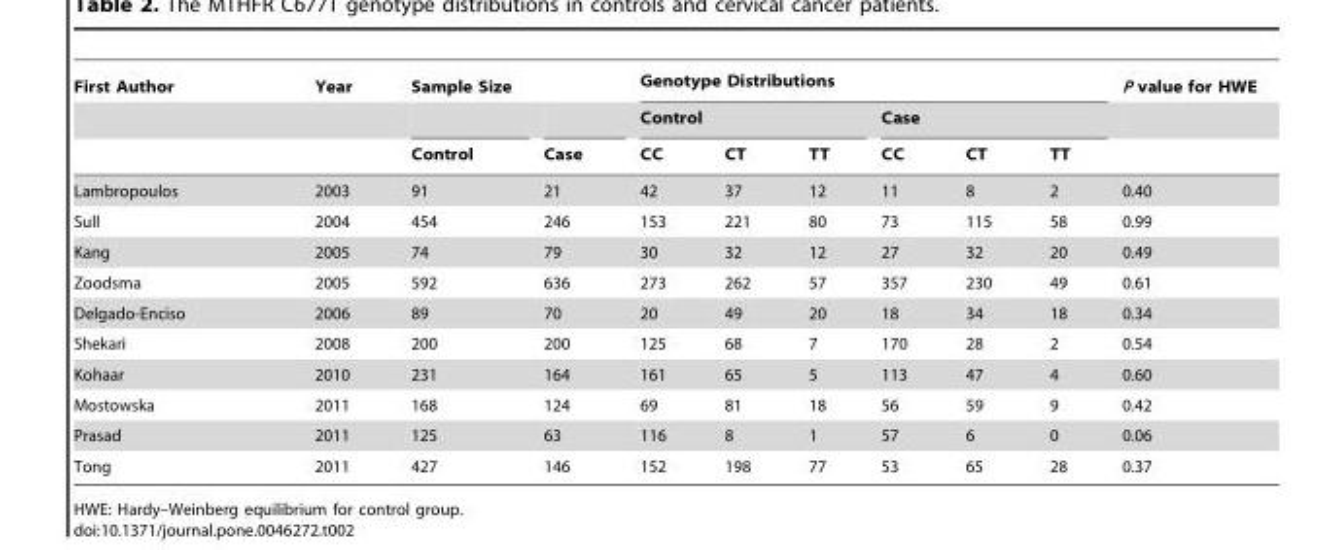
<table><thead><tr><td rowspan="3">First Author</td><td rowspan="3">Year</td><td colspan="2">Sample Size</td><td colspan="6">Genotype Distributions</td><td rowspan="3">P value for HWE</td></tr><tr><td rowspan="2">Control</td><td rowspan="2">Case</td><td colspan="3">Control</td><td colspan="3">Case</td></tr><tr><td>CC</td><td>CT</td><td>TT</td><td>CC</td><td>CT</td><td>TT</td></tr></thead><tbody><tr><td>Lambropoulos</td><td>2003</td><td>91</td><td>21</td><td>42</td><td>37</td><td>12</td><td>11</td><td>8</td><td>2</td><td>0.40</td></tr><tr><td>Sull</td><td>2004</td><td>454</td><td>246</td><td>153</td><td>221</td><td>80</td><td>73</td><td>115</td><td>58</td><td>0.99</td></tr><tr><td>Kang</td><td>2005</td><td>74</td><td>79</td><td>30</td><td>32</td><td>12</td><td>27</td><td>32</td><td>20</td><td>0.49</td></tr><tr><td>Zoodsma</td><td>2005</td><td>592</td><td>636</td><td>273</td><td>262</td><td>57</td><td>357</td><td>230</td><td>49</td><td>0.61</td></tr><tr><td>Delgado-Enciso</td><td>2006</td><td>89</td><td>70</td><td>20</td><td>49</td><td>20</td><td>18</td><td>34</td><td>18</td><td>0.34</td></tr><tr><td>Shekari</td><td>2008</td><td>200</td><td>200</td><td>125</td><td>68</td><td>7</td><td>170</td><td>28</td><td>2</td><td>0.54</td></tr><tr><td>Kohaar</td><td>2010</td><td>231</td><td>164</td><td>161</td><td>65</td><td>5</td><td>113</td><td>47</td><td>4</td><td>0.60</td></tr><tr><td>Mostowska</td><td>2011</td><td>168</td><td>124</td><td>69</td><td>81</td><td>18</td><td>56</td><td>59</td><td>9</td><td>0.42</td></tr><tr><td>Prasad</td><td>2011</td><td>125</td><td>63</td><td>116</td><td>8</td><td>1</td><td>57</td><td>6</td><td>0</td><td>0.06</td></tr><tr><td>Tong</td><td>2011</td><td>427</td><td>146</td><td>152</td><td>198</td><td>77</td><td>53</td><td>65</td><td>28</td><td>0.37</td></tr></tbody></table>